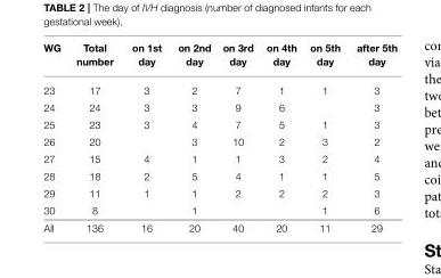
<table><thead><tr><td>WG</td><td>Total number</td><td>on 1st day</td><td>on 2nd day</td><td>on 3rd day</td><td>on 4th day</td><td>on 5th day</td><td>after 5th day</td></tr></thead><tbody><tr><td>23</td><td>17</td><td>3</td><td>2</td><td>7</td><td>1</td><td>1</td><td>3</td></tr><tr><td>24</td><td>24</td><td>3</td><td>3</td><td>9</td><td>6</td><td></td><td>3</td></tr><tr><td>25</td><td>23</td><td>3</td><td>4</td><td>7</td><td>5</td><td>1</td><td>3</td></tr><tr><td>26</td><td>20</td><td></td><td>3</td><td>10</td><td>2</td><td>3</td><td>2</td></tr><tr><td>27</td><td>15</td><td>4</td><td>1</td><td>1</td><td>3</td><td>2</td><td>4</td></tr><tr><td>28</td><td>18</td><td>2</td><td>5</td><td>4</td><td>1</td><td>1</td><td>5</td></tr><tr><td>29</td><td>11</td><td>1</td><td>1</td><td>2</td><td>2</td><td>2</td><td>3</td></tr><tr><td>30</td><td>8</td><td></td><td>1</td><td></td><td></td><td>1</td><td>6</td></tr><tr><td>All</td><td>136</td><td>16</td><td>20</td><td>40</td><td>20</td><td>11</td><td>29</td></tr></tbody></table>